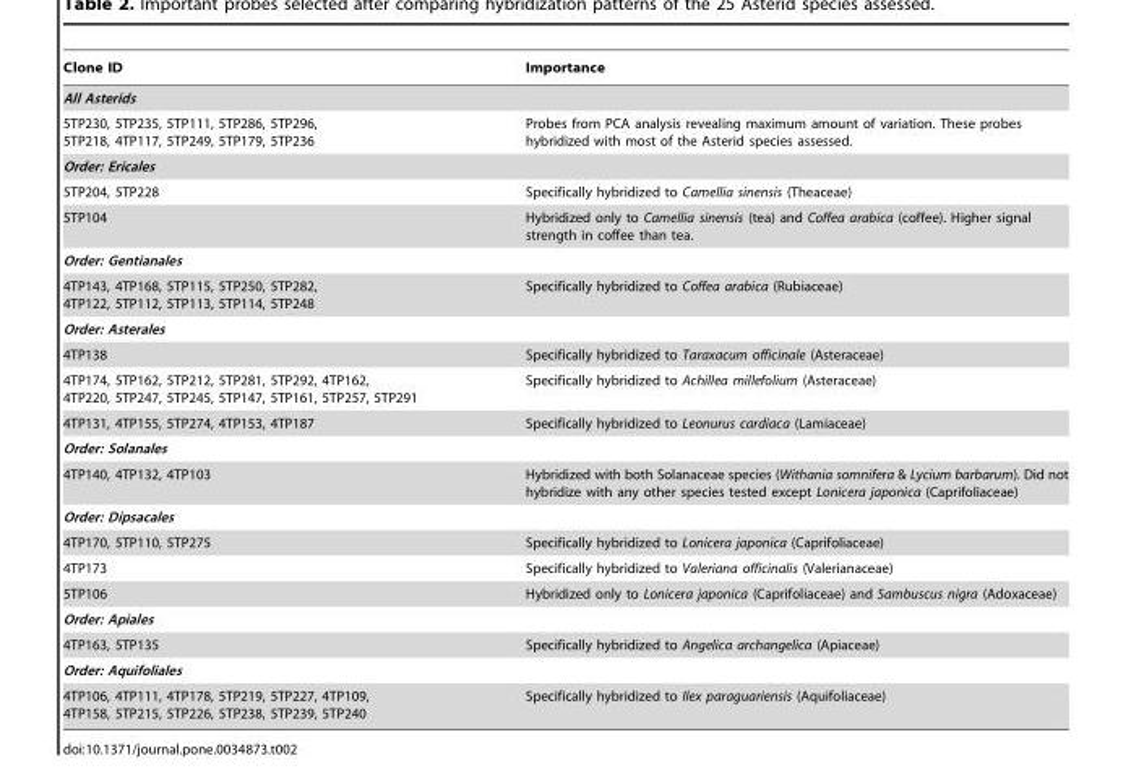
<table><thead><tr><td>Clone ID</td><td>Importance</td></tr></thead><tbody><tr><td colspan="2">All Asterids</td></tr><tr><td>5TP230, 5TP235, 5TP111, 5TP286, 5TP296, 5TP218, 4TP117, 5TP249, 5TP179, 5TP236</td><td>Probes from PCA analysis revealing maximum amount of variation. These probes hybridized with most of the Asterid species assessed.</td></tr><tr><td colspan="2">Order: Ericales</td></tr><tr><td>5TP204, 5TP228</td><td>Specifically hybridized to Camellia sinensis (Theaceae)</td></tr><tr><td>5TP104</td><td>Hybridized only to Camellia sinensis (tea) and Coffea arabica (coffee). Higher signal strength in coffee than tea.</td></tr><tr><td colspan="2">Order: Gentianales</td></tr><tr><td>4TP143, 4TP168, 5TP115, 5TP250, 5TP282, 4TP122, 5TP112, 5TP113, 5TP114, 5TP248</td><td>Specifically hybridized to Coffea arabica (Rubiaceae)</td></tr><tr><td colspan="2">Order: Asterales</td></tr><tr><td>4TP138</td><td>Specifically hybridized to Taraxacum officinale (Asteraceae)</td></tr><tr><td>4TP174, 5TP162, 5TP212, 5TP281, 5TP292, 4TP162, 4TP220, 5TP247, 5TP245, 5TP147, 5TP161, 5TP257, 5TP291</td><td>Specifically hybridized to Achillea millefolium (Asteraceae)</td></tr><tr><td>4TP131, 4TP155, 5TP274, 4TP153, 4TP187</td><td>Specifically hybridized to Leonurus cardiaca (Lamiaceae)</td></tr><tr><td colspan="2">Order: Solanales</td></tr><tr><td>4TP140, 4TP132, 4TP103</td><td>Hybridized with both Solanaceae species (Withania somnifera &amp; Lycium barbarum). Did not hybridize with any other species tested except Lonicera japonica (Caprifoliaceae)</td></tr><tr><td colspan="2">Order: Dipsacales</td></tr><tr><td>4TP170, 5TP110, 5TP275</td><td>Specifically hybridized to Lonicera japonica (Caprifoliaceae)</td></tr><tr><td>4TP173</td><td>Specifically hybridized to Valeriana officinalis (Valerianaceae)</td></tr><tr><td>5TP106</td><td>Hybridized only to Lonicera japonica (Caprifoliaceae) and Sambuscus nigra (Adoxaceae)</td></tr><tr><td colspan="2">Order: Apiales</td></tr><tr><td>4TP163, 5TP135</td><td>Specifically hybridized to Angelica archangelica (Apiaceae)</td></tr><tr><td colspan="2">Order: Aquifoliales</td></tr><tr><td>4TP106, 4TP111, 4TP178, 5TP219, 5TP227, 4TP109, 4TP158, 5TP215, 5TP226, 5TP238, 5TP239, 5TP240</td><td>Specifically hybridized to Ilex paraguariensis (Aquifoliaceae)</td></tr></tbody></table>